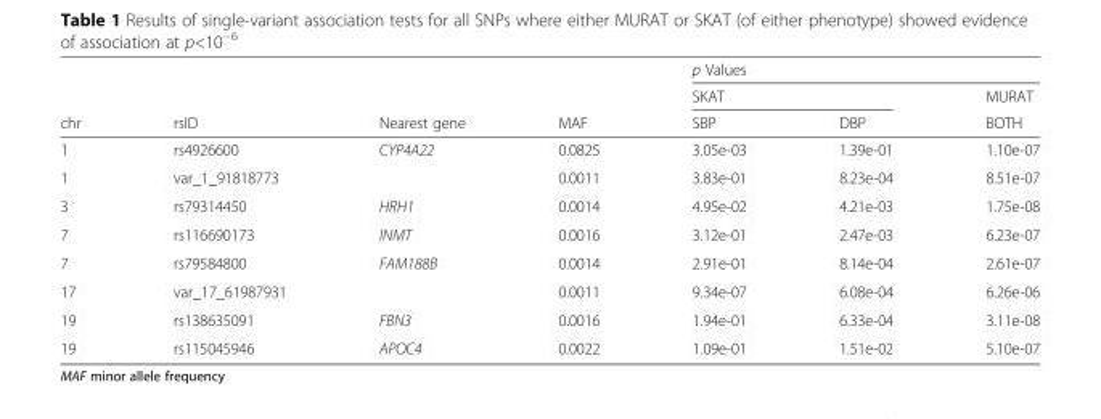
<table><thead><tr><td rowspan="3">chr</td><td rowspan="3">rsID</td><td rowspan="3">Nearest gene</td><td rowspan="3">MAF</td><td colspan="3">p Values</td></tr><tr><td colspan="2">SKAT</td><td rowspan="2">MURAT BOTH</td></tr><tr><td>SBP</td><td>DBP</td></tr></thead><tbody><tr><td>1</td><td>rs4926600</td><td>CYP4A22</td><td>0.0825</td><td>3.05e-03</td><td>1.39e-01</td><td>1.10e-07</td></tr><tr><td>1</td><td>var_1_91818773</td><td></td><td>0.0011</td><td>3.83e-01</td><td>8.23e-04</td><td>8.51e-07</td></tr><tr><td>3</td><td>rs79314450</td><td>HRH1</td><td>0.0014</td><td>4.95e-02</td><td>4.21e-03</td><td>1.75e-08</td></tr><tr><td>7</td><td>rs116690173</td><td>INMT</td><td>0.0016</td><td>3.12e-01</td><td>2.47e-03</td><td>6.23e-07</td></tr><tr><td>7</td><td>rs79584800</td><td>FAM188B</td><td>0.0014</td><td>2.91e-01</td><td>8.14e-04</td><td>2.61e-07</td></tr><tr><td>17</td><td>var_17_61987931</td><td></td><td>0.0011</td><td>9.34e-07</td><td>6.08e-04</td><td>6.26e-06</td></tr><tr><td>19</td><td>rs138635091</td><td>FBN3</td><td>0.0016</td><td>1.94e-01</td><td>6.33e-04</td><td>3.11e-08</td></tr><tr><td>19</td><td>rs115045946</td><td>APOC4</td><td>0.0022</td><td>1.09e-01</td><td>1.51e-02</td><td>5.10e-07</td></tr></tbody></table>